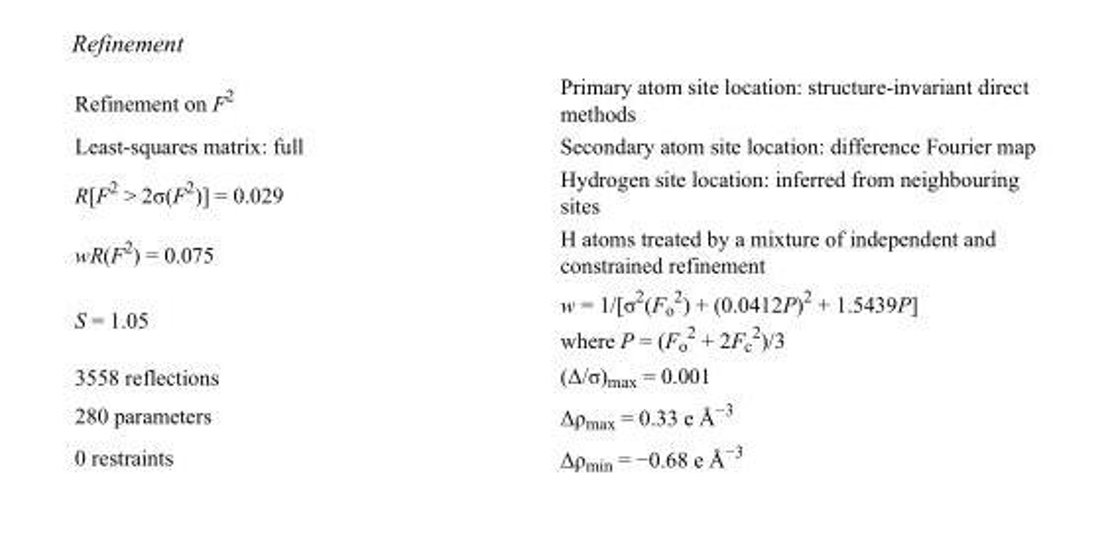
<table><tbody><tr><td>Refinement on F<sup>2</sup></td><td>Primary atom site location: structure-invariant direct methods</td></tr><tr><td>Least-squares matrix: full</td><td>Secondary atom site location: difference Fourier map</td></tr><tr><td>R[F<sup>2</sup> &gt; 2σ(F<sup>2</sup>)] = 0.029</td><td>Hydrogen site location: inferred from neighbouring sites</td></tr><tr><td>wR(F<sup>2</sup>) = 0.075</td><td>H atoms treated by a mixture of independent and constrained refinement</td></tr><tr><td>S = 1.05</td><td>w = 1/[σ<sup>2</sup>(F<sub>o</sub> <sup>2</sup>) + (0.0412P)<sup>2</sup> + 1.5439P] where P = (F<sub>o</sub> <sup>2</sup> + 2F<sub>c</sub> <sup>2</sup>)/3</td></tr><tr><td>3558 reflections</td><td>(Δ/σ)<sub>max</sub> = 0.001</td></tr><tr><td>280 parameters</td><td>Δρ<sub>max</sub> = 0.33 e Å<sup>−3</sup></td></tr><tr><td>0 restraints</td><td>Δρ<sub>min</sub> = −0.68 e Å<sup>−3</sup></td></tr></tbody></table>